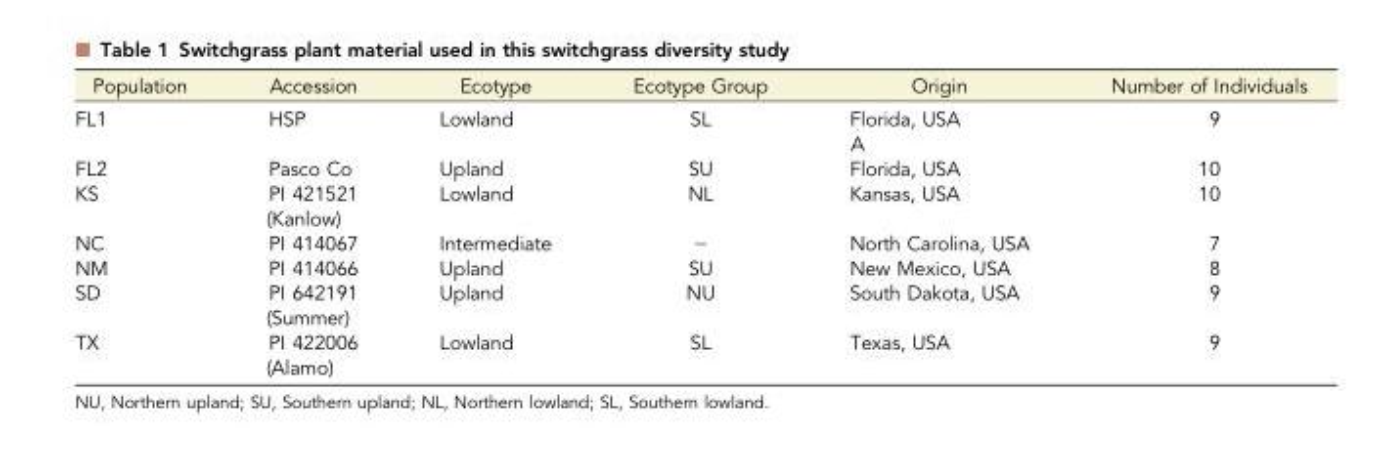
<table><thead><tr><td>Population</td><td>Accession</td><td>Ecotype</td><td>Ecotype Group</td><td>Origin</td><td>Number of Individuals</td></tr></thead><tbody><tr><td>FL1</td><td>HSP</td><td>Lowland</td><td>SL</td><td>Florida, USA A</td><td>9</td></tr><tr><td>FL2</td><td>Pasco Co</td><td>Upland</td><td>SU</td><td>Florida, USA</td><td>10</td></tr><tr><td>KS</td><td>PI 421521 (Kanlow)</td><td>Lowland</td><td>NL</td><td>Kansas, USA</td><td>10</td></tr><tr><td>NC</td><td>PI 414067</td><td>Intermediate</td><td>−</td><td>North Carolina, USA</td><td>7</td></tr><tr><td>NM</td><td>PI 414066</td><td>Upland</td><td>SU</td><td>New Mexico, USA</td><td>8</td></tr><tr><td>SD</td><td>PI 642191 (Summer)</td><td>Upland</td><td>NU</td><td>South Dakota, USA</td><td>9</td></tr><tr><td>TX</td><td>PI 422006 (Alamo)</td><td>Lowland</td><td>SL</td><td>Texas, USA</td><td>9</td></tr></tbody></table>